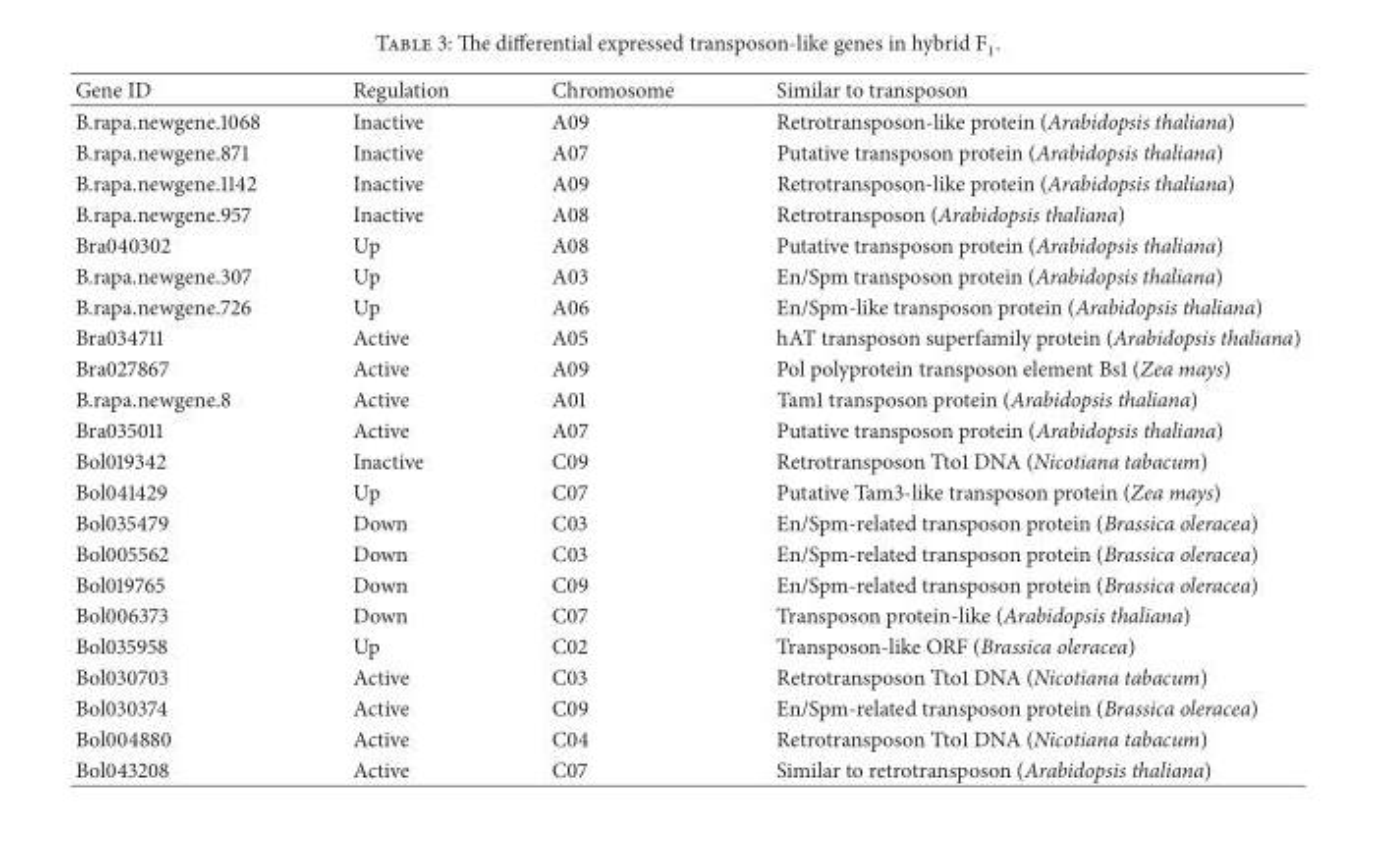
<table><thead><tr><td>Gene ID</td><td>Regulation</td><td>Chromosome</td><td>Similar to transposon</td></tr></thead><tbody><tr><td>B.rapa.newgene.1068</td><td>Inactive</td><td>A09</td><td>Retrotransposon-like protein (Arabidopsis thaliana)</td></tr><tr><td>B.rapa.newgene.871</td><td>Inactive</td><td>A07</td><td>Putative transposon protein (Arabidopsis thaliana)</td></tr><tr><td>B.rapa.newgene.1142</td><td>Inactive</td><td>A09</td><td>Retrotransposon-like protein (Arabidopsis thaliana)</td></tr><tr><td>B.rapa.newgene.957</td><td>Inactive</td><td>A08</td><td>Retrotransposon (Arabidopsis thaliana)</td></tr><tr><td>Bra040302</td><td>Up</td><td>A08</td><td>Putative transposon protein (Arabidopsis thaliana)</td></tr><tr><td>B.rapa.newgene.307</td><td>Up</td><td>A03</td><td>En/Spm transposon protein (Arabidopsis thaliana)</td></tr><tr><td>B.rapa.newgene.726</td><td>Up</td><td>A06</td><td>En/Spm-like transposon protein (Arabidopsis thaliana)</td></tr><tr><td>Bra034711</td><td>Active</td><td>A05</td><td>hAT transposon superfamily protein (Arabidopsis thaliana)</td></tr><tr><td>Bra027867</td><td>Active</td><td>A09</td><td>Pol polyprotein transposon element Bs1 (Zea mays)</td></tr><tr><td>B.rapa.newgene.8</td><td>Active</td><td>A01</td><td>Tam1 transposon protein (Arabidopsis thaliana)</td></tr><tr><td>Bra035011</td><td>Active</td><td>A07</td><td>Putative transposon protein (Arabidopsis thaliana)</td></tr><tr><td>Bol019342</td><td>Inactive</td><td>C09</td><td>Retrotransposon Tto1 DNA (Nicotiana tabacum)</td></tr><tr><td>Bol041429</td><td>Up</td><td>C07</td><td>Putative Tam3-like transposon protein (Zea mays)</td></tr><tr><td>Bol035479</td><td>Down</td><td>C03</td><td>En/Spm-related transposon protein (Brassica oleracea)</td></tr><tr><td>Bol005562</td><td>Down</td><td>C03</td><td>En/Spm-related transposon protein (Brassica oleracea)</td></tr><tr><td>Bol019765</td><td>Down</td><td>C09</td><td>En/Spm-related transposon protein (Brassica oleracea)</td></tr><tr><td>Bol006373</td><td>Down</td><td>C07</td><td>Transposon protein-like (Arabidopsis thaliana)</td></tr><tr><td>Bol035958</td><td>Up</td><td>C02</td><td>Transposon-like ORF (Brassica oleracea)</td></tr><tr><td>Bol030703</td><td>Active</td><td>C03</td><td>Retrotransposon Tto1 DNA (Nicotiana tabacum)</td></tr><tr><td>Bol030374</td><td>Active</td><td>C09</td><td>En/Spm-related transposon protein (Brassica oleracea)</td></tr><tr><td>Bol004880</td><td>Active</td><td>C04</td><td>Retrotransposon Tto1 DNA (Nicotiana tabacum)</td></tr><tr><td>Bol043208</td><td>Active</td><td>C07</td><td>Similar to retrotransposon (Arabidopsis thaliana)</td></tr></tbody></table>